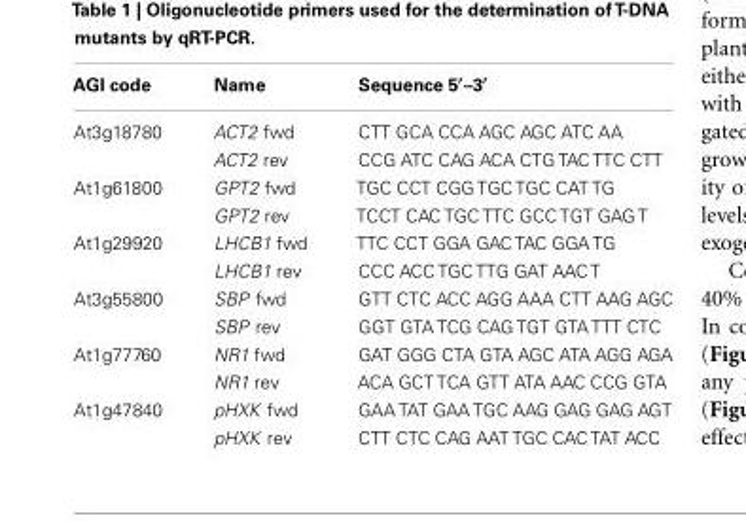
<table><thead><tr><td>AGI code</td><td>Name</td><td>Sequence 5′–3′</td></tr></thead><tbody><tr><td rowspan="2">At3g18780</td><td>ACT2 fwd</td><td>CTT GCA CCA AGC AGC ATC AA</td></tr><tr><td>ACT2 rev</td><td>CCG ATC CAG ACA CTG TAC TTC CTT</td></tr><tr><td rowspan="2">At1g61800</td><td>GPT2 fwd</td><td>TGC CCT CGG TGC TGC CAT TG</td></tr><tr><td>GPT2 rev</td><td>TCCT CAC TGC TTC GCC TGT GAG T</td></tr><tr><td rowspan="2">At1g29920</td><td>LHCB1 fwd</td><td>TTC CCT GGA GAC TAC GGA TG</td></tr><tr><td>LHCB1 rev</td><td>CCC ACC TGC TTG GAT AAC T</td></tr><tr><td rowspan="2">At3g55800</td><td>SBP fwd</td><td>GTT CTC ACC AGG AAA CTT AAG AGC</td></tr><tr><td>SBP rev</td><td>GGT GTA TCG CAG TGT GTA TTT CTC</td></tr><tr><td rowspan="2">At1g77760</td><td>NR1 fwd</td><td>GAT GGG CTA GTA AGC ATA AGG AGA</td></tr><tr><td>NR1 rev</td><td>ACA GCT TCA GTT ATA AAC CCG GTA</td></tr><tr><td rowspan="2">At1g47840</td><td>pHXK fwd</td><td>GAA TAT GAA TGC AAG GAG GAG AGT</td></tr><tr><td>pHXK rev</td><td>CTT CTC CAG AAT TGC CAC TAT ACC</td></tr></tbody></table>